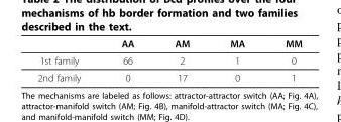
<table><thead><tr><td></td><td>AA</td><td>AM</td><td>MA</td><td>MM</td></tr></thead><tbody><tr><td>1st family</td><td>66</td><td>2</td><td>1</td><td>0</td></tr><tr><td>2nd family</td><td>0</td><td>17</td><td>0</td><td>1</td></tr></tbody></table>